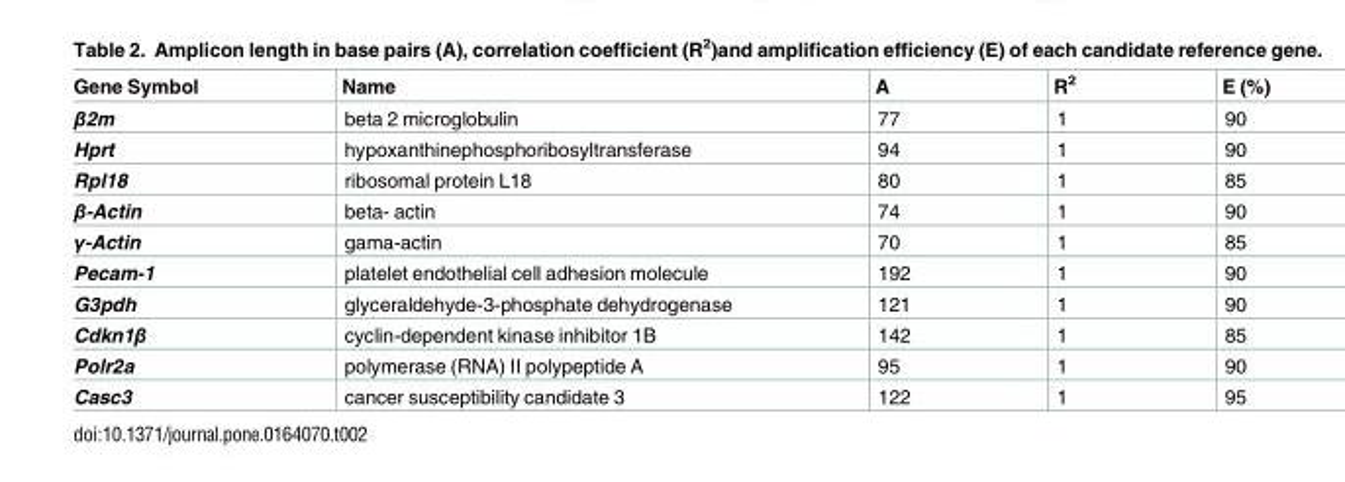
<table><thead><tr><td>Gene Symbol</td><td>Name</td><td>A</td><td>R<sup>2</sup></td><td>E (%)</td></tr></thead><tbody><tr><td>β2m</td><td>beta 2 microglobulin</td><td>77</td><td>1</td><td>90</td></tr><tr><td>Hprt</td><td>hypoxanthinephosphoribosyltransferase</td><td>94</td><td>1</td><td>90</td></tr><tr><td>Rpl18</td><td>ribosomal protein L18</td><td>80</td><td>1</td><td>85</td></tr><tr><td>β-Actin</td><td>beta- actin</td><td>74</td><td>1</td><td>90</td></tr><tr><td>γ-Actin</td><td>gama-actin</td><td>70</td><td>1</td><td>85</td></tr><tr><td>Pecam-1</td><td>platelet endothelial cell adhesion molecule</td><td>192</td><td>1</td><td>90</td></tr><tr><td>G3pdh</td><td>glyceraldehyde-3-phosphate dehydrogenase</td><td>121</td><td>1</td><td>90</td></tr><tr><td>Cdkn1β</td><td>cyclin-dependent kinase inhibitor 1B</td><td>142</td><td>1</td><td>85</td></tr><tr><td>Polr2a</td><td>polymerase (RNA) II polypeptide A</td><td>95</td><td>1</td><td>90</td></tr><tr><td>Casc3</td><td>cancer susceptibility candidate 3</td><td>122</td><td>1</td><td>95</td></tr></tbody></table>